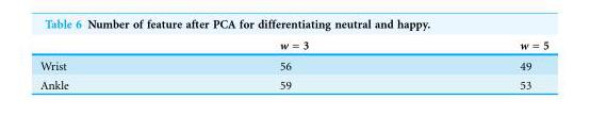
<table><thead><tr><td></td><td>w = 3</td><td>w = 5</td></tr></thead><tbody><tr><td>Wrist</td><td>56</td><td>49</td></tr><tr><td>Ankle</td><td>59</td><td>53</td></tr></tbody></table>